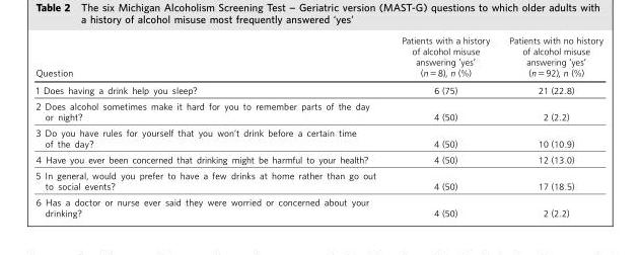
<table><thead><tr><td>Question</td><td>Patients with a history of alcohol misuse answering ‘yes’ (n = 8), n (%)</td><td>Patients with no history of alcohol misuse answering ‘yes’ (n = 92), n (%)</td></tr></thead><tbody><tr><td>1 Does having a drink help you sleep?</td><td>6 (75)</td><td>21 (22.8)</td></tr><tr><td>2 Does alcohol sometimes make it hard for you to remember parts of the day or night?</td><td>4 (50)</td><td>2 (2.2)</td></tr><tr><td>3 Do you have rules for yourself that you won’t drink before a certain time of the day?</td><td>4 (50)</td><td>10 (10.9)</td></tr><tr><td>4 Have you ever been concerned that drinking might be harmful to your health?</td><td>4 (50)</td><td>12 (13.0)</td></tr><tr><td>5 In general, would you prefer to have a few drinks at home rather than go out to social events?</td><td>4 (50)</td><td>17 (18.5)</td></tr><tr><td>6 Has a doctor or nurse ever said they were worried or concerned about your drinking?</td><td>4 (50)</td><td>2 (2.2)</td></tr></tbody></table>